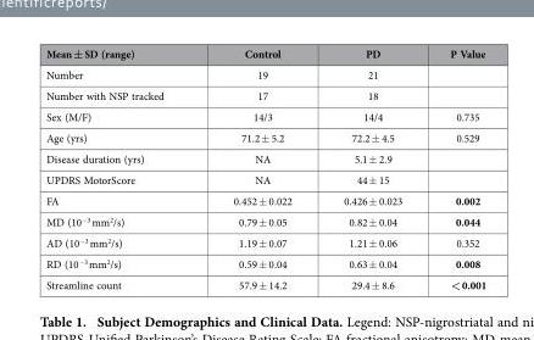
<table><thead><tr><td>Mean ± SD (range)</td><td>Control</td><td>PD</td><td>P Value</td></tr></thead><tbody><tr><td>Number</td><td>19</td><td>21</td><td></td></tr><tr><td>Number with NSP tracked</td><td>17</td><td>18</td><td></td></tr><tr><td>Sex (M/F)</td><td>14/3</td><td>14/4</td><td>0.735</td></tr><tr><td>Age (yrs)</td><td>71.2 ± 5.2</td><td>72.2 ± 4.5</td><td>0.529</td></tr><tr><td>Disease duration (yrs)</td><td>NA</td><td>5.1 ± 2.9</td><td></td></tr><tr><td>UPDRS MotorScore</td><td>NA</td><td>44 ± 15</td><td></td></tr><tr><td>FA</td><td>0.452 ± 0.022</td><td>0.426 ± 0.023</td><td>0.002</td></tr><tr><td>MD (10<sup>−3</sup> mm<sup>2</sup>/s)</td><td>0.79 ± 0.05</td><td>0.82 ± 0.04</td><td>0.044</td></tr><tr><td>AD (10<sup>−3</sup> mm<sup>2</sup>/s)</td><td>1.19 ± 0.07</td><td>1.21 ± 0.06</td><td>0.352</td></tr><tr><td>RD (10<sup>−3</sup> mm<sup>2</sup>/s)</td><td>0.59 ± 0.04</td><td>0.63 ± 0.04</td><td>0.008</td></tr><tr><td>Streamline count</td><td>57.9 ± 14.2</td><td>29.4 ± 8.6</td><td>&lt; 0.001</td></tr></tbody></table>